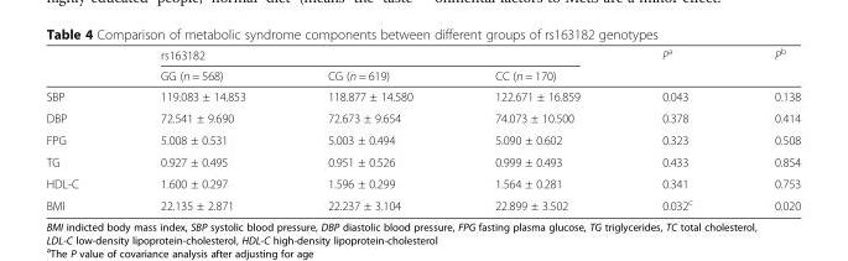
<table><thead><tr><td rowspan="2"></td><td colspan="3">rs163182</td><td rowspan="2">P<sup>a</sup></td><td rowspan="2">P<sup>b</sup></td></tr><tr><td>GG (n = 568)</td><td>CG (n = 619)</td><td>CC (n = 170)</td></tr></thead><tbody><tr><td>SBP</td><td>119.083 ± 14.853</td><td>118.877 ± 14.580</td><td>122.671 ± 16.859</td><td>0.043</td><td>0.138</td></tr><tr><td>DBP</td><td>72.541 ± 9.690</td><td>72.673 ± 9.654</td><td>74.073 ± 10.500</td><td>0.378</td><td>0.414</td></tr><tr><td>FPG</td><td>5.008 ± 0.531</td><td>5.003 ± 0.494</td><td>5.090 ± 0.602</td><td>0.323</td><td>0.508</td></tr><tr><td>TG</td><td>0.927 ± 0.495</td><td>0.951 ± 0.526</td><td>0.999 ± 0.493</td><td>0.433</td><td>0.854</td></tr><tr><td>HDL-C</td><td>1.600 ± 0.297</td><td>1.596 ± 0.299</td><td>1.564 ± 0.281</td><td>0.341</td><td>0.753</td></tr><tr><td>BMI</td><td>22.135 ± 2.871</td><td>22.237 ± 3.104</td><td>22.899 ± 3.502</td><td>0.032<sup>c</sup></td><td>0.020</td></tr></tbody></table>